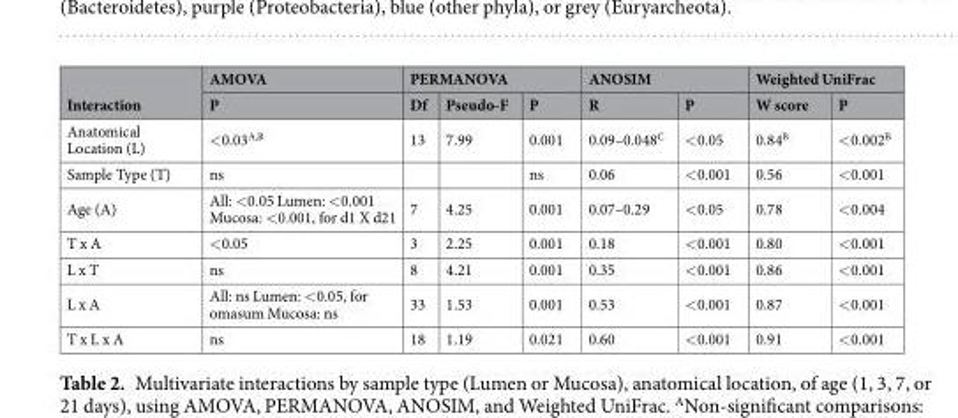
<table><thead><tr><td rowspan="2">Interaction</td><td rowspan="2">AMOVA P</td><td colspan="3">PERMANOVA</td><td colspan="2">ANOSIM</td><td colspan="2">Weighted UniFrac</td></tr><tr><td>Df</td><td>Pseudo-F</td><td>P</td><td>R</td><td>P</td><td>W score</td><td>P</td></tr></thead><tbody><tr><td>Anatomical Location (L)</td><td>&lt;0.03<sup>A,B</sup></td><td>13</td><td>7.99</td><td>0.001</td><td>0.09–0.048<sup>C</sup></td><td>&lt;0.05</td><td>0.84<sup>B</sup></td><td>&lt;0.002<sup>B</sup></td></tr><tr><td>Sample Type (T)</td><td>ns</td><td></td><td></td><td>ns</td><td>0.06</td><td>&lt;0.001</td><td>0.56</td><td>&lt;0.001</td></tr><tr><td>Age (A)</td><td>All: &lt;0.05 Lumen: &lt;0.001 Mucosa: &lt;0.001, for d1 X d21</td><td>7</td><td>4.25</td><td>0.001</td><td>0.07–0.29</td><td>&lt;0.05</td><td>0.78</td><td>&lt;0.004</td></tr><tr><td>T x A</td><td>&lt;0.05</td><td>3</td><td>2.25</td><td>0.001</td><td>0.18</td><td>&lt;0.001</td><td>0.80</td><td>&lt;0.001</td></tr><tr><td>L x T</td><td>ns</td><td>8</td><td>4.21</td><td>0.001</td><td>0.35</td><td>&lt;0.001</td><td>0.86</td><td>&lt;0.001</td></tr><tr><td>L x A</td><td>All: ns Lumen: &lt;0.05, for omasum Mucosa: ns</td><td>33</td><td>1.53</td><td>0.001</td><td>0.53</td><td>&lt;0.001</td><td>0.87</td><td>&lt;0.001</td></tr><tr><td>T x L x A</td><td>ns</td><td>18</td><td>1.19</td><td>0.021</td><td>0.60</td><td>&lt;0.001</td><td>0.91</td><td>&lt;0.001</td></tr></tbody></table>